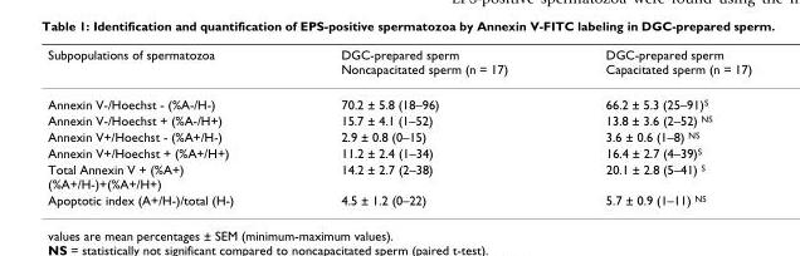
<table><thead><tr><td>Subpopulations of spermatozoa</td><td>DGC-prepared sperm Noncapacitated sperm (n = 17)</td><td>DGC-prepared sperm Capacitated sperm (n = 17)</td></tr></thead><tbody><tr><td>Annexin V-/Hoechst - (%A-/H-)</td><td>70.2 ± 5.8 (18–96)</td><td>66.2 ± 5.3 (25–91)<sup>S</sup></td></tr><tr><td>Annexin V-/Hoechst + (%A-/H+)</td><td>15.7 ± 4.1 (1–52)</td><td>13.8 ± 3.6 (2–52) <sup>NS</sup></td></tr><tr><td>Annexin V+/Hoechst - (%A+/H-)</td><td>2.9 ± 0.8 (0–15)</td><td>3.6 ± 0.6 (1–8) <sup>NS</sup></td></tr><tr><td>Annexin V+/Hoechst + (%A+/H+)</td><td>11.2 ± 2.4 (1–34)</td><td>16.4 ± 2.7 (4–39)<sup>S</sup></td></tr><tr><td>Total Annexin V + (%A+) (%A+/H-)+(%A+/H+)</td><td>14.2 ± 2.7 (2–38)</td><td>20.1 ± 2.8 (5–41) <sup>S</sup></td></tr><tr><td>Apoptotic index (A+/H-)/total (H-)</td><td>4.5 ± 1.2 (0–22)</td><td>5.7 ± 0.9 (1–11) <sup>NS</sup></td></tr></tbody></table>